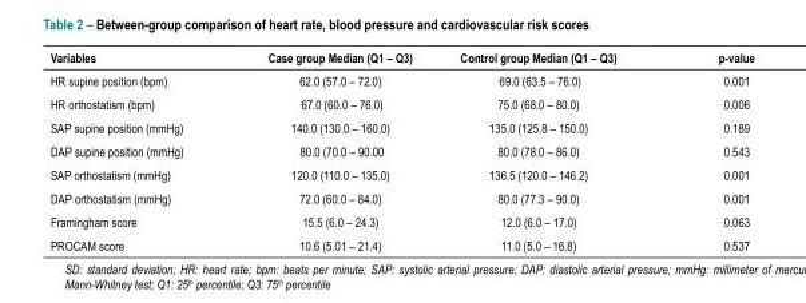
<table><thead><tr><td>Variables</td><td>Case group Median (Q1 – Q3)</td><td>Control group Median (Q1 – Q3)</td><td>p-value</td></tr></thead><tbody><tr><td>HR supine position (bpm)</td><td>62.0 (57.0 – 72.0)</td><td>69.0 (63.5 – 76.0)</td><td>0.001</td></tr><tr><td>HR orthostatism (bpm)</td><td>67.0 (60.0 – 76.0)</td><td>75.0 (68.0 – 80.0)</td><td>0.006</td></tr><tr><td>SAP supine position (mmHg)</td><td>140.0 (130.0 – 160.0)</td><td>135.0 (125.8 – 150.0)</td><td>0.189</td></tr><tr><td>DAP supine position (mmHg)</td><td>80.0 (70.0 – 90.00</td><td>80.0 (78.0 – 86.0)</td><td>0.543</td></tr><tr><td>SAP orthostatism (mmHg)</td><td>120.0 (110.0 – 135.0)</td><td>136.5 (120.0 – 146.2)</td><td>0.001</td></tr><tr><td>DAP orthostatism (mmHg)</td><td>72.0 (60.0 – 84.0)</td><td>80.0 (77.3 – 90.0)</td><td>0.001</td></tr><tr><td>Framingham score</td><td>15.5 (6.0 – 24.3)</td><td>12.0 (6.0 – 17.0)</td><td>0.063</td></tr><tr><td>PROCAM score</td><td>10.6 (5.01 – 21.4)</td><td>11.0 (5.0 – 16.8)</td><td>0.537</td></tr></tbody></table>